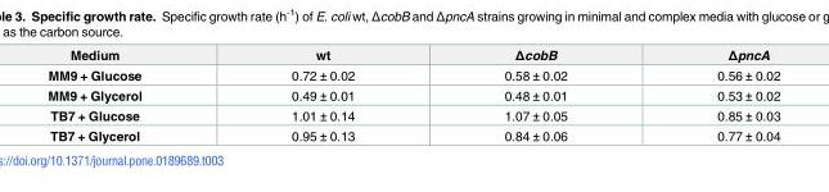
<table><thead><tr><td>Medium</td><td>wt</td><td>ΔcobB</td><td>ΔpncA</td></tr></thead><tbody><tr><td>MM9 + Glucose</td><td>0.72 ± 0.02</td><td>0.58 ± 0.02</td><td>0.56 ± 0.02</td></tr><tr><td>MM9 + Glycerol</td><td>0.49 ± 0.01</td><td>0.48 ± 0.01</td><td>0.53 ± 0.02</td></tr><tr><td>TB7 + Glucose</td><td>1.01 ± 0.14</td><td>1.07 ± 0.05</td><td>0.85 ± 0.03</td></tr><tr><td>TB7 + Glycerol</td><td>0.95 ± 0.13</td><td>0.84 ± 0.06</td><td>0.77 ± 0.04</td></tr></tbody></table>